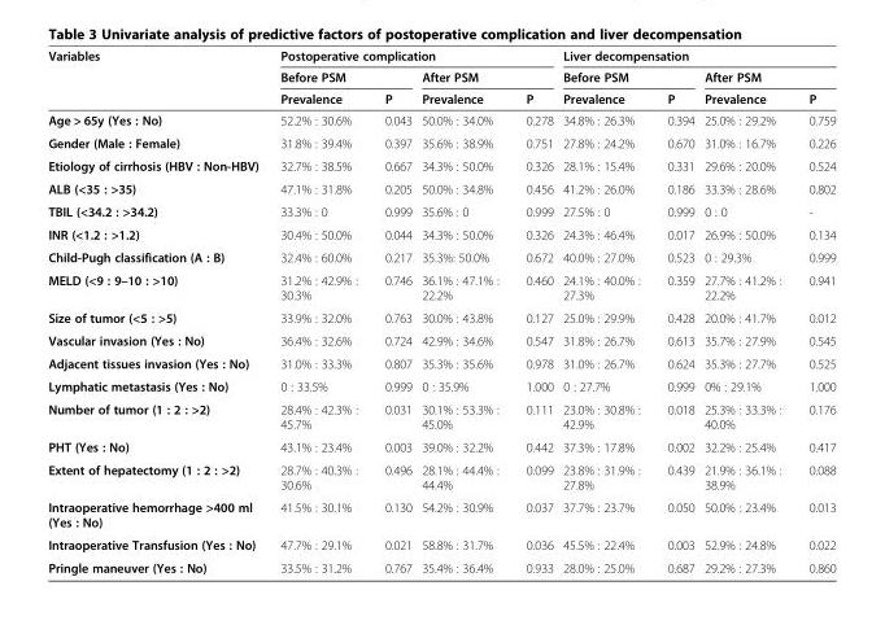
<table><thead><tr><td rowspan="3">Variables</td><td colspan="4">Postoperative complication</td><td colspan="4">Liver decompensation</td></tr><tr><td colspan="2">Before PSM</td><td colspan="2">After PSM</td><td colspan="2">Before PSM</td><td colspan="2">After PSM</td></tr><tr><td>Prevalence</td><td>P</td><td>Prevalence</td><td>P</td><td>Prevalence</td><td>P</td><td>Prevalence</td><td>P</td></tr></thead><tbody><tr><td>Age &gt; 65y (Yes : No)</td><td>52.2% : 30.6%</td><td>0.043</td><td>50.0% : 34.0%</td><td>0.278</td><td>34.8% : 26.3%</td><td>0.394</td><td>25.0% : 29.2%</td><td>0.759</td></tr><tr><td>Gender (Male : Female)</td><td>31.8% : 39.4%</td><td>0.397</td><td>35.6% : 38.9%</td><td>0.751</td><td>27.8% : 24.2%</td><td>0.670</td><td>31.0% : 16.7%</td><td>0.226</td></tr><tr><td>Etiology of cirrhosis (HBV : Non-HBV)</td><td>32.7% : 38.5%</td><td>0.667</td><td>34.3% : 50.0%</td><td>0.326</td><td>28.1% : 15.4%</td><td>0.331</td><td>29.6% : 20.0%</td><td>0.524</td></tr><tr><td>ALB (&lt;35 : &gt;35)</td><td>47.1% : 31.8%</td><td>0.205</td><td>50.0% : 34.8%</td><td>0.456</td><td>41.2% : 26.0%</td><td>0.186</td><td>33.3% : 28.6%</td><td>0.802</td></tr><tr><td>TBIL (&lt;34.2 : &gt;34.2)</td><td>33.3% : 0</td><td>0.999</td><td>35.6% : 0</td><td>0.999</td><td>27.5% : 0</td><td>0.999</td><td>0 : 0</td><td>-</td></tr><tr><td>INR (&lt;1.2 : &gt;1.2)</td><td>30.4% : 50.0%</td><td>0.044</td><td>34.3% : 50.0%</td><td>0.326</td><td>24.3% : 46.4%</td><td>0.017</td><td>26.9% : 50.0%</td><td>0.134</td></tr><tr><td>Child-Pugh classification (A : B)</td><td>32.4% : 60.0%</td><td>0.217</td><td>35.3%: 50.0%</td><td>0.672</td><td>40.0% : 27.0%</td><td>0.523</td><td>0 : 29.3%</td><td>0.999</td></tr><tr><td>MELD (&lt;9 : 9–10 : &gt;10)</td><td>31.2% : 42.9% : 30.3%</td><td>0.746</td><td>36.1% : 47.1% : 22.2%</td><td>0.460</td><td>24.1% : 40.0% : 27.3%</td><td>0.359</td><td>27.7% : 41.2% : 22.2%</td><td>0.941</td></tr><tr><td>Size of tumor (&lt;5 : &gt;5)</td><td>33.9% : 32.0%</td><td>0.763</td><td>30.0% : 43.8%</td><td>0.127</td><td>25.0% : 29.9%</td><td>0.428</td><td>20.0% : 41.7%</td><td>0.012</td></tr><tr><td>Vascular invasion (Yes : No)</td><td>36.4% : 32.6%</td><td>0.724</td><td>42.9% : 34.6%</td><td>0.547</td><td>31.8% : 26.7%</td><td>0.613</td><td>35.7% : 27.9%</td><td>0.545</td></tr><tr><td>Adjacent tissues invasion (Yes : No)</td><td>31.0% : 33.3%</td><td>0.807</td><td>35.3% : 35.6%</td><td>0.978</td><td>31.0% : 26.7%</td><td>0.624</td><td>35.3% : 27.7%</td><td>0.525</td></tr><tr><td>Lymphatic metastasis (Yes : No)</td><td>0 : 33.5%</td><td>0.999</td><td>0 : 35.9%</td><td>1.000</td><td>0 : 27.7%</td><td>0.999</td><td>0% : 29.1%</td><td>1.000</td></tr><tr><td>Number of tumor (1 : 2 : &gt;2)</td><td>28.4% : 42.3% : 45.7%</td><td>0.031</td><td>30.1% : 53.3% : 45.0%</td><td>0.111</td><td>23.0% : 30.8% : 42.9%</td><td>0.018</td><td>25.3% : 33.3% : 40.0%</td><td>0.176</td></tr><tr><td>PHT (Yes : No)</td><td>43.1% : 23.4%</td><td>0.003</td><td>39.0% : 32.2%</td><td>0.442</td><td>37.3% : 17.8%</td><td>0.002</td><td>32.2% : 25.4%</td><td>0.417</td></tr><tr><td>Extent of hepatectomy (1 : 2 : &gt;2)</td><td>28.7% : 40.3% : 30.6%</td><td>0.496</td><td>28.1% : 44.4% : 44.4%</td><td>0.099</td><td>23.8% : 31.9% : 27.8%</td><td>0.439</td><td>21.9% : 36.1% : 38.9%</td><td>0.088</td></tr><tr><td>Intraoperative hemorrhage &gt;400 ml (Yes : No)</td><td>41.5% : 30.1%</td><td>0.130</td><td>54.2% : 30.9%</td><td>0.037</td><td>37.7% : 23.7%</td><td>0.050</td><td>50.0% : 23.4%</td><td>0.013</td></tr><tr><td>Intraoperative Transfusion (Yes : No)</td><td>47.7% : 29.1%</td><td>0.021</td><td>58.8% : 31.7%</td><td>0.036</td><td>45.5% : 22.4%</td><td>0.003</td><td>52.9% : 24.8%</td><td>0.022</td></tr><tr><td>Pringle maneuver (Yes : No)</td><td>33.5% : 31.2%</td><td>0.767</td><td>35.4% : 36.4%</td><td>0.933</td><td>28.0% : 25.0%</td><td>0.687</td><td>29.2% : 27.3%</td><td>0.860</td></tr></tbody></table>